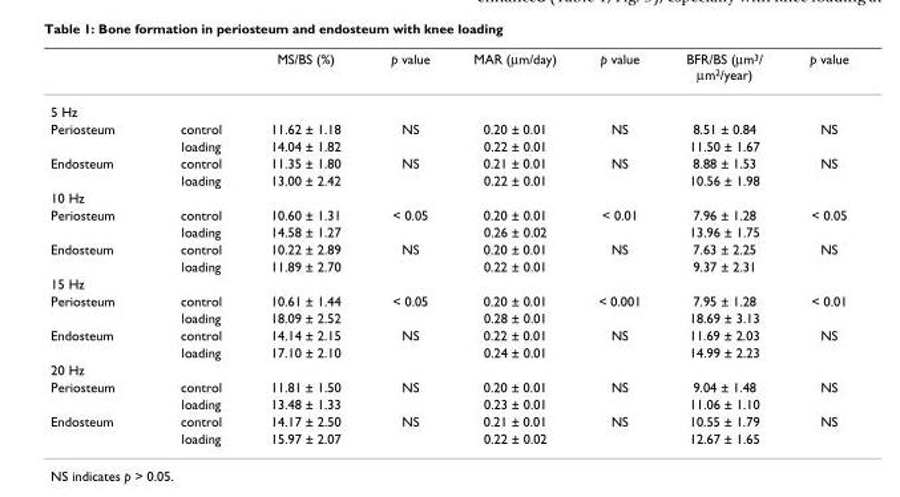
<table><thead><tr><td></td><td></td><td>MS/BS (%)</td><td>p value</td><td>MAR (μm/day)</td><td>p value</td><td>BFR/BS (μm3/ μm2/year)</td><td>p value</td></tr></thead><tbody><tr><td colspan="8">5 Hz</td></tr><tr><td rowspan="2">Periosteum</td><td>control</td><td>11.62 ± 1.18</td><td>NS</td><td>0.20 ± 0.01</td><td>NS</td><td>8.51 ± 0.84</td><td>NS</td></tr><tr><td>loading</td><td>14.04 ± 1.82</td><td></td><td>0.22 ± 0.01</td><td></td><td>11.50 ± 1.67</td><td></td></tr><tr><td rowspan="2">Endosteum</td><td>control</td><td>11.35 ± 1.80</td><td>NS</td><td>0.21 ± 0.01</td><td>NS</td><td>8.88 ± 1.53</td><td>NS</td></tr><tr><td>loading</td><td>13.00 ± 2.42</td><td></td><td>0.22 ± 0.01</td><td></td><td>10.56 ± 1.98</td><td></td></tr><tr><td colspan="8">10 Hz</td></tr><tr><td rowspan="2">Periosteum</td><td>control</td><td>10.60 ± 1.31</td><td>&lt; 0.05</td><td>0.20 ± 0.01</td><td>&lt; 0.01</td><td>7.96 ± 1.28</td><td>&lt; 0.05</td></tr><tr><td>loading</td><td>14.58 ± 1.27</td><td></td><td>0.26 ± 0.02</td><td></td><td>13.96 ± 1.75</td><td></td></tr><tr><td rowspan="2">Endosteum</td><td>control</td><td>10.22 ± 2.89</td><td>NS</td><td>0.20 ± 0.01</td><td>NS</td><td>7.63 ± 2.25</td><td>NS</td></tr><tr><td>loading</td><td>11.89 ± 2.70</td><td></td><td>0.22 ± 0.01</td><td></td><td>9.37 ± 2.31</td><td></td></tr><tr><td colspan="8">15 Hz</td></tr><tr><td rowspan="2">Periosteum</td><td>control</td><td>10.61 ± 1.44</td><td>&lt; 0.05</td><td>0.20 ± 0.01</td><td>&lt; 0.001</td><td>7.95 ± 1.28</td><td>&lt; 0.01</td></tr><tr><td>loading</td><td>18.09 ± 2.52</td><td></td><td>0.28 ± 0.01</td><td></td><td>18.69 ± 3.13</td><td></td></tr><tr><td rowspan="2">Endosteum</td><td>control</td><td>14.14 ± 2.15</td><td>NS</td><td>0.22 ± 0.01</td><td>NS</td><td>11.69 ± 2.03</td><td>NS</td></tr><tr><td>loading</td><td>17.10 ± 2.10</td><td></td><td>0.24 ± 0.01</td><td></td><td>14.99 ± 2.23</td><td></td></tr><tr><td colspan="8">20 Hz</td></tr><tr><td rowspan="2">Periosteum</td><td>control</td><td>11.81 ± 1.50</td><td>NS</td><td>0.20 ± 0.01</td><td>NS</td><td>9.04 ± 1.48</td><td>NS</td></tr><tr><td>loading</td><td>13.48 ± 1.33</td><td></td><td>0.23 ± 0.01</td><td></td><td>11.06 ± 1.10</td><td></td></tr><tr><td rowspan="2">Endosteum</td><td>control</td><td>14.17 ± 2.50</td><td>NS</td><td>0.21 ± 0.01</td><td>NS</td><td>10.55 ± 1.79</td><td>NS</td></tr><tr><td>loading</td><td>15.97 ± 2.07</td><td></td><td>0.22 ± 0.02</td><td></td><td>12.67 ± 1.65</td><td></td></tr></tbody></table>